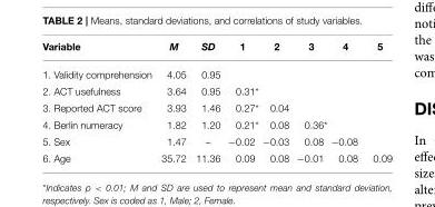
<table><thead><tr><td>Variable</td><td>M</td><td>SD</td><td>1</td><td>2</td><td>3</td><td>4</td><td>5</td></tr></thead><tbody><tr><td>1. Validity comprehension</td><td>4.05</td><td>0.95</td><td></td><td></td><td></td><td></td><td></td></tr><tr><td>2. ACT usefulness</td><td>3.64</td><td>0.95</td><td>0.31*</td><td></td><td></td><td></td><td></td></tr><tr><td>3. Reported ACT score</td><td>3.93</td><td>1.46</td><td>0.27*</td><td>0.04</td><td></td><td></td><td></td></tr><tr><td>4. Berlin numeracy</td><td>1.82</td><td>1.20</td><td>0.21*</td><td>0.08</td><td>0.36*</td><td></td><td></td></tr><tr><td>5. Sex</td><td>1.47</td><td>–</td><td>−0.02</td><td>−0.03</td><td>0.08</td><td>−0.08</td><td></td></tr><tr><td>6. Age</td><td>35.72</td><td>11.36</td><td>0.09</td><td>0.08</td><td>−0.01</td><td>0.08</td><td>0.09</td></tr></tbody></table>